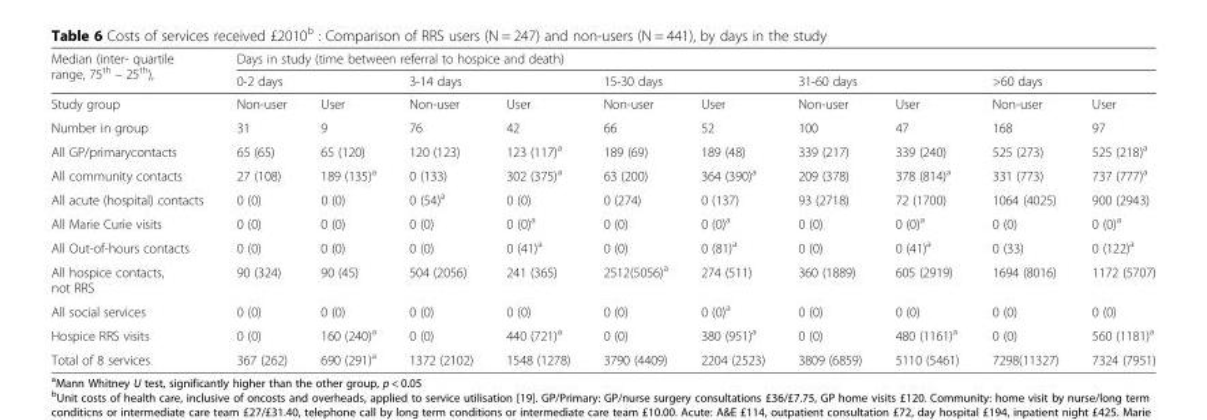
<table><thead><tr><td rowspan="3">Median (inter- quartile range, 75<sup>th</sup> – 25<sup>th</sup>), Study group</td><td colspan="10">Days in study (time between referral to hospice and death)</td></tr><tr><td colspan="2">0-2 days</td><td colspan="2">3-14 days</td><td colspan="2">15-30 days</td><td colspan="2">31-60 days</td><td colspan="2">&gt;60 days</td></tr><tr><td>Non-user</td><td>User</td><td>Non-user</td><td>User</td><td>Non-user</td><td>User</td><td>Non-user</td><td>User</td><td>Non-user</td><td>User</td></tr></thead><tbody><tr><td>Number in group</td><td>31</td><td>9</td><td>76</td><td>42</td><td>66</td><td>52</td><td>100</td><td>47</td><td>168</td><td>97</td></tr><tr><td>All GP/primarycontacts</td><td>65 (65)</td><td>65 (120)</td><td>120 (123)</td><td>123 (117)<sup>a</sup></td><td>189 (69)</td><td>189 (48)</td><td>339 (217)</td><td>339 (240)</td><td>525 (273)</td><td>525 (218)<sup>a</sup></td></tr><tr><td>All community contacts</td><td>27 (108)</td><td>189 (135)<sup>a</sup></td><td>0 (133)</td><td>302 (375)<sup>a</sup></td><td>63 (200)</td><td>364 (390)<sup>a</sup></td><td>209 (378)</td><td>378 (814)<sup>a</sup></td><td>331 (773)</td><td>737 (777)<sup>a</sup></td></tr><tr><td>All acute (hospital) contacts</td><td>0 (0)</td><td>0 (0)</td><td>0 (54)<sup>a</sup></td><td>0 (0)</td><td>0 (274)</td><td>0 (137)</td><td>93 (2718)</td><td>72 (1700)</td><td>1064 (4025)</td><td>900 (2943)</td></tr><tr><td>All Marie Curie visits</td><td>0 (0)</td><td>0 (0)</td><td>0 (0)</td><td>0 (0)<sup>a</sup></td><td>0 (0)</td><td>0 (0)<sup>a</sup></td><td>0 (0)</td><td>0 (0)<sup>a</sup></td><td>0 (0)</td><td>0 (0)<sup>a</sup></td></tr><tr><td>All Out-of-hours contacts</td><td>0 (0)</td><td>0 (0)</td><td>0 (0)</td><td>0 (41)<sup>a</sup></td><td>0 (0)</td><td>0 (81)<sup>a</sup></td><td>0 (0)</td><td>0 (41)<sup>a</sup></td><td>0 (33)</td><td>0 (122)<sup>a</sup></td></tr><tr><td>All hospice contacts, not RRS</td><td>90 (324)</td><td>90 (45)</td><td>504 (2056)</td><td>241 (365)</td><td>2512(5056)<sup>a</sup></td><td>274 (511)</td><td>360 (1889)</td><td>605 (2919)</td><td>1694 (8016)</td><td>1172 (5707)</td></tr><tr><td>All social services</td><td>0 (0)</td><td>0 (0)</td><td>0 (0)</td><td>0 (0)</td><td>0 (0)</td><td>0 (0)<sup>a</sup></td><td>0 (0)</td><td>0 (0)</td><td>0 (0)</td><td>0 (0)</td></tr><tr><td>Hospice RRS visits</td><td>0 (0)</td><td>160 (240)<sup>a</sup></td><td>0 (0)</td><td>440 (721)<sup>a</sup></td><td>0 (0)</td><td>380 (951)<sup>a</sup></td><td>0 (0)</td><td>480 (1161)<sup>a</sup></td><td>0 (0)</td><td>560 (1181)<sup>a</sup></td></tr><tr><td>Total of 8 services</td><td>367 (262)</td><td>690 (291)<sup>a</sup></td><td>1372 (2102)</td><td>1548 (1278)</td><td>3790 (4409)</td><td>2204 (2523)</td><td>3809 (6859)</td><td>5110 (5461)</td><td>7298(11327)</td><td>7324 (7951)</td></tr></tbody></table>